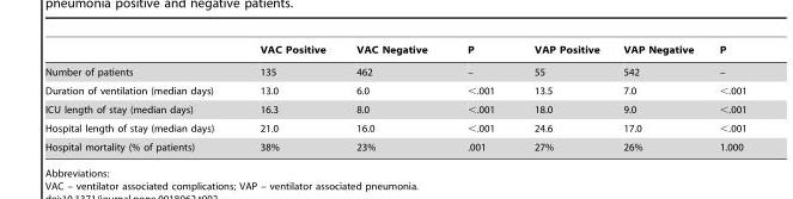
<table><thead><tr><td></td><td>VAC Positive</td><td>VAC Negative</td><td>P</td><td>VAP Positive</td><td>VAP Negative</td><td>P</td></tr></thead><tbody><tr><td>Number of patients</td><td>135</td><td>462</td><td>–</td><td>55</td><td>542</td><td>–</td></tr><tr><td>Duration of ventilation (median days)</td><td>13.0</td><td>6.0</td><td>&lt;.001</td><td>13.5</td><td>7.0</td><td>&lt;.001</td></tr><tr><td>ICU length of stay (median days)</td><td>16.3</td><td>8.0</td><td>&lt;.001</td><td>18.0</td><td>9.0</td><td>&lt;.001</td></tr><tr><td>Hospital length of stay (median days)</td><td>21.0</td><td>16.0</td><td>&lt;.001</td><td>24.6</td><td>17.0</td><td>&lt;.001</td></tr><tr><td>Hospital mortality (% of patients)</td><td>38%</td><td>23%</td><td>.001</td><td>27%</td><td>26%</td><td>1.000</td></tr></tbody></table>